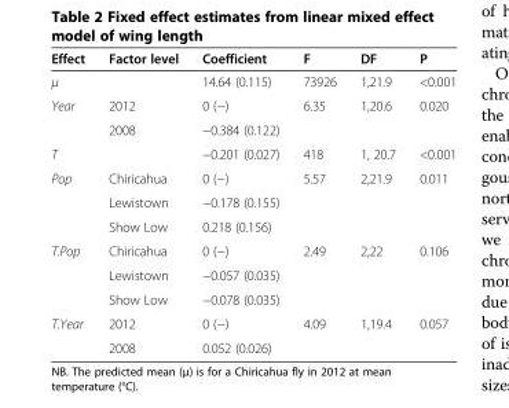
<table><thead><tr><td>Effect</td><td>Factor level</td><td>Coefficient</td><td>F</td><td>DF</td><td>P</td></tr></thead><tbody><tr><td>μ</td><td></td><td>14.64 (0.115)</td><td>73926</td><td>1,21.9</td><td>&lt;0.001</td></tr><tr><td rowspan="2">Year</td><td>2012</td><td>0 (−)</td><td>6.35</td><td>1,20.6</td><td>0.020</td></tr><tr><td>2008</td><td>−0.384 (0.122)</td><td></td><td></td><td></td></tr><tr><td>T</td><td></td><td>−0.201 (0.027)</td><td>418</td><td>1, 20.7</td><td>&lt;0.001</td></tr><tr><td rowspan="3">Pop</td><td>Chiricahua</td><td>0 (−)</td><td>5.57</td><td>2,21.9</td><td>0.011</td></tr><tr><td>Lewistown</td><td>−0.178 (0.155)</td><td></td><td></td><td></td></tr><tr><td>Show Low</td><td>0.218 (0.156)</td><td></td><td></td><td></td></tr><tr><td rowspan="3">T.Pop</td><td>Chiricahua</td><td>0 (−)</td><td>2.49</td><td>2,22</td><td>0.106</td></tr><tr><td>Lewistown</td><td>−0.057 (0.035)</td><td></td><td></td><td></td></tr><tr><td>Show Low</td><td>−0.078 (0.035)</td><td></td><td></td><td></td></tr><tr><td rowspan="2">T.Year</td><td>2012</td><td>0 (−)</td><td>4.09</td><td>1,19.4</td><td>0.057</td></tr><tr><td>2008</td><td>0.052 (0.026)</td><td></td><td></td><td></td></tr></tbody></table>